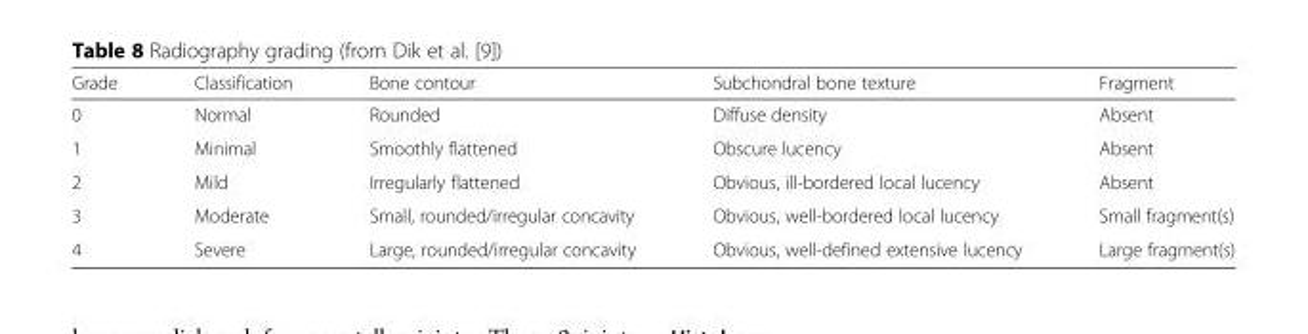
<table><thead><tr><td>Grade</td><td>Classification</td><td>Bone contour</td><td>Subchondral bone texture</td><td>Fragment</td></tr></thead><tbody><tr><td>0</td><td>Normal</td><td>Rounded</td><td>Diffuse density</td><td>Absent</td></tr><tr><td>1</td><td>Minimal</td><td>Smoothly flattened</td><td>Obscure lucency</td><td>Absent</td></tr><tr><td>2</td><td>Mild</td><td>Irregularly flattened</td><td>Obvious, ill-bordered local lucency</td><td>Absent</td></tr><tr><td>3</td><td>Moderate</td><td>Small, rounded/irregular concavity</td><td>Obvious, well-bordered local lucency</td><td>Small fragment(s)</td></tr><tr><td>4</td><td>Severe</td><td>Large, rounded/irregular concavity</td><td>Obvious, well-defined extensive lucency</td><td>Large fragment(s)</td></tr></tbody></table>